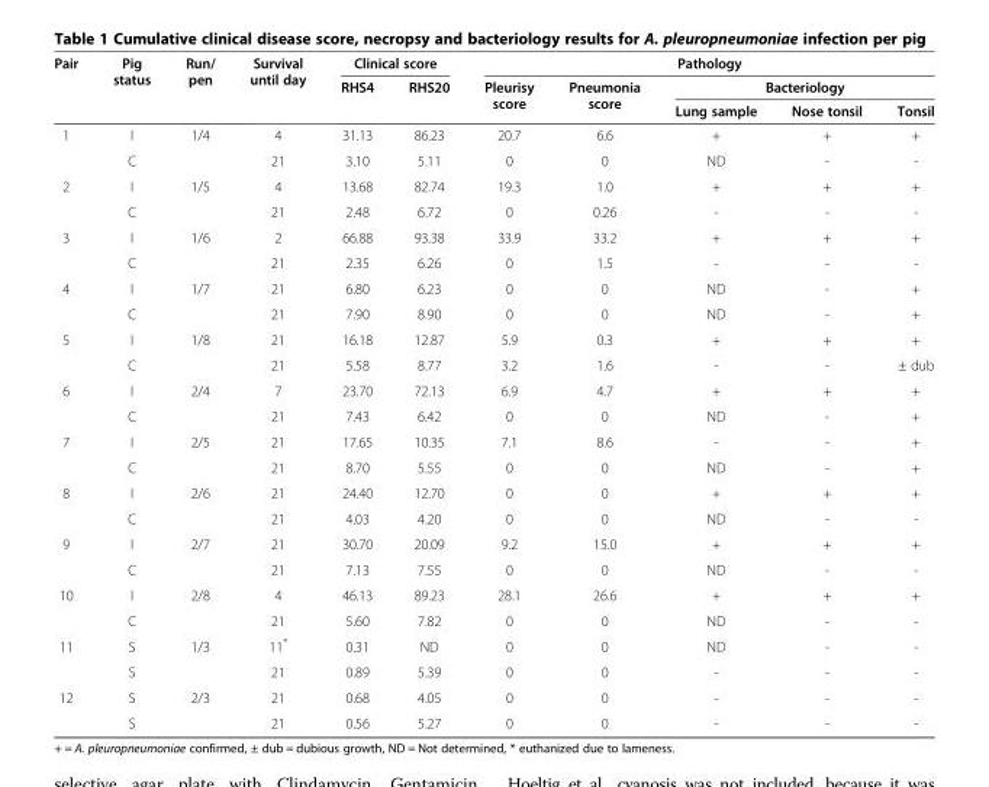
<table><thead><tr><td rowspan="3">Pair</td><td rowspan="3">Pig status</td><td rowspan="3">Run/ pen</td><td rowspan="3">Survival until day</td><td colspan="2">Clinical score</td><td colspan="5">Pathology</td></tr><tr><td rowspan="2">RHS4</td><td rowspan="2">RHS20</td><td rowspan="2">Pleurisy score</td><td rowspan="2">Pneumonia score</td><td colspan="3">Bacteriology</td></tr><tr><td>Lung sample</td><td>Nose tonsil</td><td>Tonsil</td></tr></thead><tbody><tr><td rowspan="2">1</td><td>I</td><td>1/4</td><td>4</td><td>31.13</td><td>86.23</td><td>20.7</td><td>6.6</td><td>+</td><td>+</td><td>+</td></tr><tr><td>C</td><td></td><td>21</td><td>3.10</td><td>5.11</td><td>0</td><td>0</td><td>ND</td><td>-</td><td>-</td></tr><tr><td rowspan="2">2</td><td>I</td><td>1/5</td><td>4</td><td>13.68</td><td>82.74</td><td>19.3</td><td>1.0</td><td>+</td><td>+</td><td>+</td></tr><tr><td>C</td><td></td><td>21</td><td>2.48</td><td>6.72</td><td>0</td><td>0.26</td><td>-</td><td>-</td><td>-</td></tr><tr><td rowspan="2">3</td><td>I</td><td>1/6</td><td>2</td><td>66.88</td><td>93.38</td><td>33.9</td><td>33.2</td><td>+</td><td>+</td><td>+</td></tr><tr><td>C</td><td></td><td>21</td><td>2.35</td><td>6.26</td><td>0</td><td>1.5</td><td>-</td><td>-</td><td>-</td></tr><tr><td rowspan="2">4</td><td>I</td><td>1/7</td><td>21</td><td>6.80</td><td>6.23</td><td>0</td><td>0</td><td>ND</td><td>-</td><td>+</td></tr><tr><td>C</td><td></td><td>21</td><td>7.90</td><td>8.90</td><td>0</td><td>0</td><td>ND</td><td>-</td><td>+</td></tr><tr><td rowspan="2">5</td><td>I</td><td>1/8</td><td>21</td><td>16.18</td><td>12.87</td><td>5.9</td><td>0.3</td><td>+</td><td>+</td><td>+</td></tr><tr><td>C</td><td></td><td>21</td><td>5.58</td><td>8.77</td><td>3.2</td><td>1.6</td><td>-</td><td>-</td><td>± dub</td></tr><tr><td rowspan="2">6</td><td>I</td><td>2/4</td><td>7</td><td>23.70</td><td>72.13</td><td>6.9</td><td>4.7</td><td>+</td><td>+</td><td>+</td></tr><tr><td>C</td><td></td><td>21</td><td>7.43</td><td>6.42</td><td>0</td><td>0</td><td>ND</td><td>-</td><td>+</td></tr><tr><td rowspan="2">7</td><td>I</td><td>2/5</td><td>21</td><td>17.65</td><td>10.35</td><td>7.1</td><td>8.6</td><td>-</td><td>-</td><td>+</td></tr><tr><td>C</td><td></td><td>21</td><td>8.70</td><td>5.55</td><td>0</td><td>0</td><td>ND</td><td>-</td><td>+</td></tr><tr><td rowspan="2">8</td><td>I</td><td>2/6</td><td>21</td><td>24.40</td><td>12.70</td><td>0</td><td>0</td><td>+</td><td>+</td><td>+</td></tr><tr><td>C</td><td></td><td>21</td><td>4.03</td><td>4.20</td><td>0</td><td>0</td><td>ND</td><td>-</td><td>-</td></tr><tr><td rowspan="2">9</td><td>I</td><td>2/7</td><td>21</td><td>30.70</td><td>20.09</td><td>9.2</td><td>15.0</td><td>+</td><td>+</td><td>+</td></tr><tr><td>C</td><td></td><td>21</td><td>7.13</td><td>7.55</td><td>0</td><td>0</td><td>ND</td><td>-</td><td>-</td></tr><tr><td rowspan="2">10</td><td>I</td><td>2/8</td><td>4</td><td>46.13</td><td>89.23</td><td>28.1</td><td>26.6</td><td>+</td><td>+</td><td>+</td></tr><tr><td>C</td><td></td><td>21</td><td>5.60</td><td>7.82</td><td>0</td><td>0</td><td>ND</td><td>-</td><td>-</td></tr><tr><td rowspan="2">11</td><td>S</td><td>1/3</td><td>11*</td><td>0.31</td><td>ND</td><td>0</td><td>0</td><td>ND</td><td>-</td><td>-</td></tr><tr><td>S</td><td></td><td>21</td><td>0.89</td><td>5.39</td><td>0</td><td>0</td><td>-</td><td>-</td><td>-</td></tr><tr><td rowspan="2">12</td><td>S</td><td>2/3</td><td>21</td><td>0.68</td><td>4.05</td><td>0</td><td>0</td><td>-</td><td>-</td><td>-</td></tr><tr><td>S</td><td></td><td>21</td><td>0.56</td><td>5.27</td><td>0</td><td>0</td><td>-</td><td>-</td><td>-</td></tr></tbody></table>